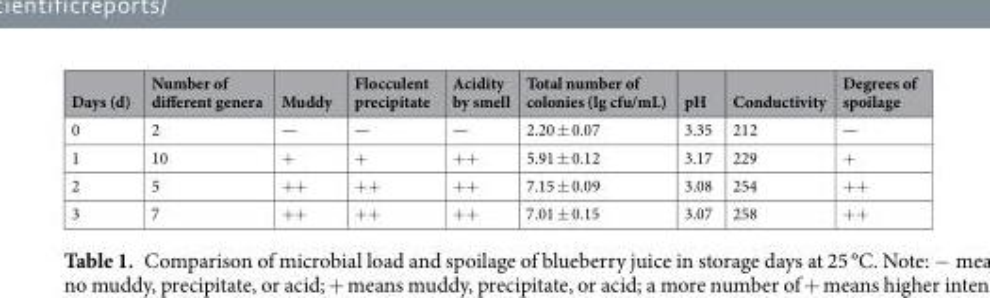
<table><thead><tr><td>Days (d)</td><td>Number of different genera</td><td>Muddy</td><td>Flocculent precipitate</td><td>Acidity by smell</td><td>Total number of colonies (lg cfu/mL)</td><td>pH</td><td>Conductivity</td><td>Degrees of spoilage</td></tr></thead><tbody><tr><td>0</td><td>2</td><td>—</td><td>—</td><td>—</td><td>2.20 ± 0.07</td><td>3.35</td><td>212</td><td>—</td></tr><tr><td>1</td><td>10</td><td>+</td><td>+</td><td>++</td><td>5.91 ± 0.12</td><td>3.17</td><td>229</td><td>+</td></tr><tr><td>2</td><td>5</td><td>++</td><td>++</td><td>++</td><td>7.15 ± 0.09</td><td>3.08</td><td>254</td><td>++</td></tr><tr><td>3</td><td>7</td><td>++</td><td>++</td><td>++</td><td>7.01 ± 0.15</td><td>3.07</td><td>258</td><td>++</td></tr></tbody></table>